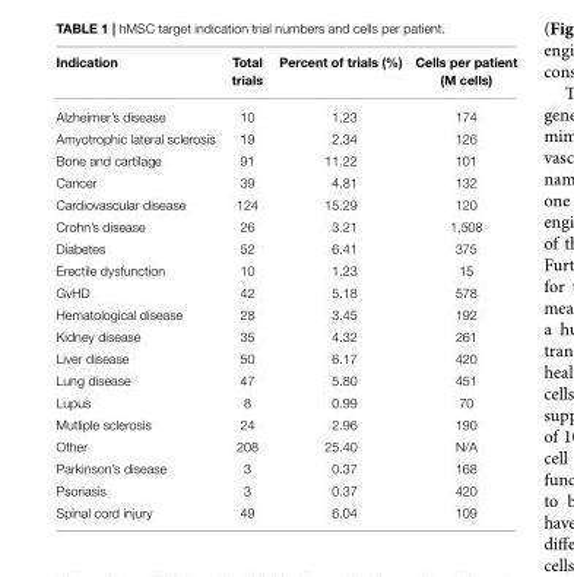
<table><thead><tr><td>Indication</td><td>Total trials</td><td>Percent of trials (%)</td><td>Cells per patient (M cells)</td></tr></thead><tbody><tr><td>Alzheimer’s disease</td><td>10</td><td>1.23</td><td>174</td></tr><tr><td>Amyotrophic lateral sclerosis</td><td>19</td><td>2.34</td><td>126</td></tr><tr><td>Bone and cartilage</td><td>91</td><td>11.22</td><td>101</td></tr><tr><td>Cancer</td><td>39</td><td>4.81</td><td>132</td></tr><tr><td>Cardiovascular disease</td><td>124</td><td>15.29</td><td>120</td></tr><tr><td>Crohn’s disease</td><td>26</td><td>3.21</td><td>1,508</td></tr><tr><td>Diabetes</td><td>52</td><td>6.41</td><td>375</td></tr><tr><td>Erectile dysfunction</td><td>10</td><td>1.23</td><td>15</td></tr><tr><td>GvHD</td><td>42</td><td>5.18</td><td>578</td></tr><tr><td>Hematological disease</td><td>28</td><td>3.45</td><td>192</td></tr><tr><td>Kidney disease</td><td>35</td><td>4.32</td><td>261</td></tr><tr><td>Liver disease</td><td>50</td><td>6.17</td><td>420</td></tr><tr><td>Lung disease</td><td>47</td><td>5.80</td><td>451</td></tr><tr><td>Lupus</td><td>8</td><td>0.99</td><td>70</td></tr><tr><td>Mutliple sclerosis</td><td>24</td><td>2.96</td><td>190</td></tr><tr><td>Other</td><td>208</td><td>25.40</td><td>N/A</td></tr><tr><td>Parkinson’s disease</td><td>3</td><td>0.37</td><td>168</td></tr><tr><td>Psoriasis</td><td>3</td><td>0.37</td><td>420</td></tr><tr><td>Spinal cord injury</td><td>49</td><td>6.04</td><td>109</td></tr></tbody></table>